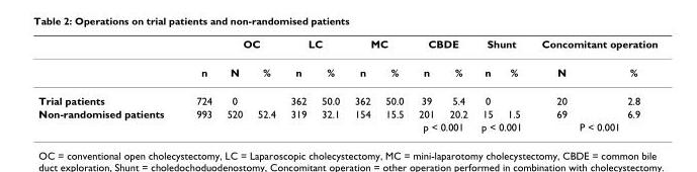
<table><thead><tr><td rowspan="2"></td><td rowspan="2">n</td><td colspan="2">OC</td><td colspan="2">LC</td><td colspan="2">MC</td><td colspan="2">CBDE</td><td colspan="2">Shunt</td><td colspan="2">Concomitant operation</td></tr><tr><td>N</td><td>%</td><td>n</td><td>%</td><td>n</td><td>%</td><td>n</td><td>%</td><td>n</td><td>%</td><td>N</td><td>%</td></tr></thead><tbody><tr><td>Trial patients</td><td>724</td><td>0</td><td></td><td>362</td><td>50.0</td><td>362</td><td>50.0</td><td>39</td><td>5.4</td><td>0</td><td></td><td>20</td><td>2.8</td></tr><tr><td rowspan="2">Non-randomised patients</td><td>993</td><td>520</td><td>52.4</td><td>319</td><td>32.1</td><td>154</td><td>15.5</td><td>201</td><td>20.2</td><td>15</td><td>1.5</td><td>69</td><td>6.9</td></tr><tr><td></td><td></td><td></td><td></td><td></td><td></td><td></td><td colspan="2">p &lt; 0.001</td><td colspan="2">p &lt; 0.001</td><td colspan="2">P &lt; 0.001</td></tr></tbody></table>